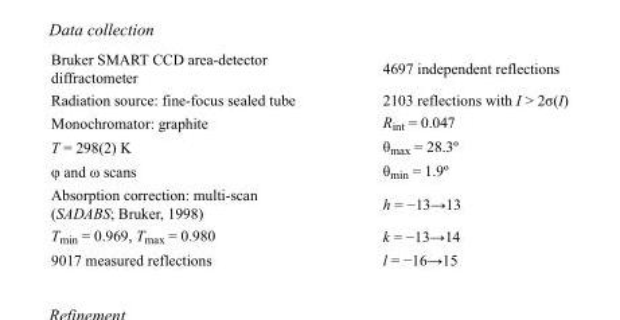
<table><tbody><tr><td>Bruker SMART CCD area-detector diffractometer</td><td>4697 independent reflections</td></tr><tr><td>Radiation source: fine-focus sealed tube</td><td>2103 reflections with I &gt; 2σ(I)</td></tr><tr><td>Monochromator: graphite</td><td>R<sub>int</sub> = 0.047</td></tr><tr><td>T = 298(2) K</td><td>θ<sub>max</sub> = 28.3º</td></tr><tr><td>φ and ω scans</td><td>θ<sub>min</sub> = 1.9º</td></tr><tr><td>Absorption correction: multi-scan (SADABS; Bruker, 1998)</td><td>h = −13→13</td></tr><tr><td>T<sub>min</sub> = 0.969, T<sub>max</sub> = 0.980</td><td>k = −13→14</td></tr><tr><td>9017 measured reflections</td><td>l = −16→15</td></tr></tbody></table>